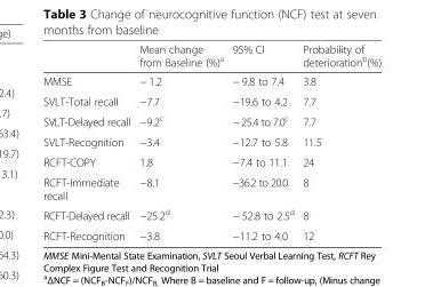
<table><thead><tr><td></td><td>Mean change from Baseline (%)<sup>a</sup></td><td>95% CI</td><td>Probability of deterioration<sup>b</sup>(%)</td></tr></thead><tbody><tr><td>MMSE</td><td>− 1.2</td><td>− 9.8 to 7.4</td><td>3.8</td></tr><tr><td>SVLT-Total recall</td><td>−7.7</td><td>−19.6 to 4.2</td><td>7.7</td></tr><tr><td>SVLT-Delayed recall</td><td>−9.2<sup>c</sup></td><td>− 25.4 to 7.0<sup>c</sup></td><td>7.7</td></tr><tr><td>SVLT-Recognition</td><td>−3.4</td><td>−12.7 to 5.8</td><td>11.5</td></tr><tr><td>RCFT-COPY</td><td>1.8</td><td>−7.4 to 11.1</td><td>24</td></tr><tr><td>RCFT-Immediate recall</td><td>−8.1</td><td>−36.2 to 20.0</td><td>8</td></tr><tr><td>RCFT-Delayed recall</td><td>−25.2<sup>d</sup></td><td>− 52.8 to 2.5<sup>d</sup></td><td>8</td></tr><tr><td>RCFT-Recognition</td><td>−3.8</td><td>−11.2 to 4.0</td><td>12</td></tr></tbody></table>